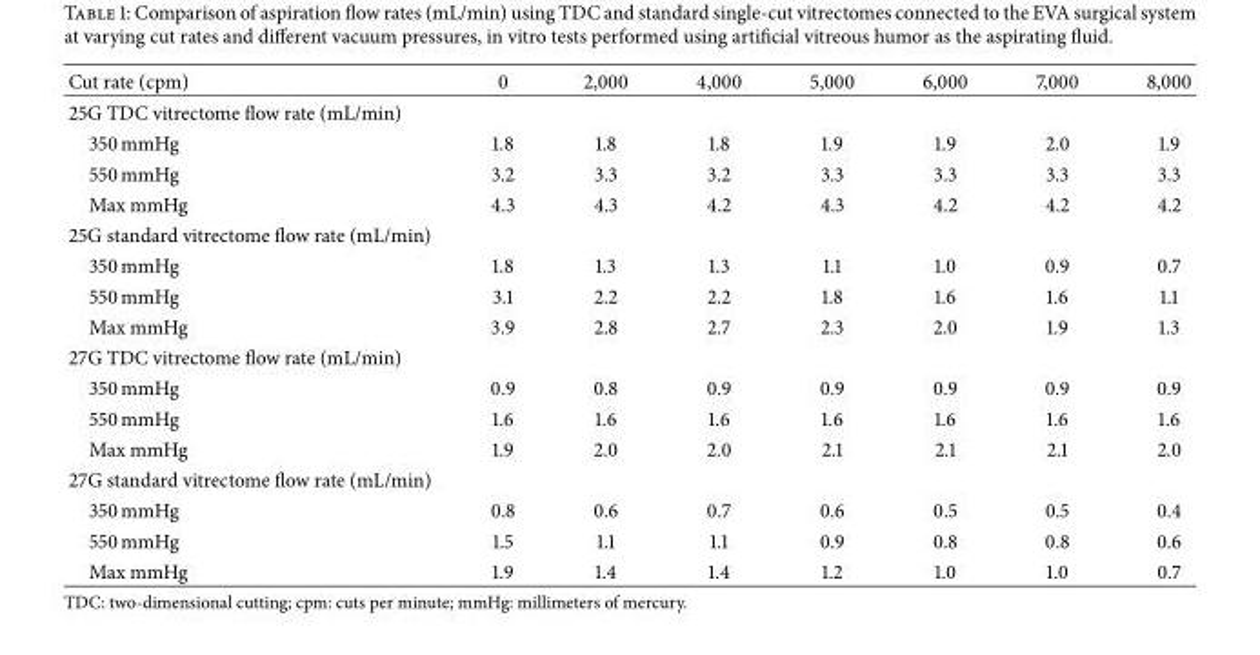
<table><thead><tr><td>Cut rate (cpm)</td><td>0</td><td>2,000</td><td>4,000</td><td>5,000</td><td>6,000</td><td>7,000</td><td>8,000</td></tr></thead><tbody><tr><td colspan="8">25G TDC vitrectome flow rate (mL/min)</td></tr><tr><td>350 mmHg</td><td>1.8</td><td>1.8</td><td>1.8</td><td>1.9</td><td>1.9</td><td>2.0</td><td>1.9</td></tr><tr><td>550 mmHg</td><td>3.2</td><td>3.3</td><td>3.2</td><td>3.3</td><td>3.3</td><td>3.3</td><td>3.3</td></tr><tr><td>Max mmHg</td><td>4.3</td><td>4.3</td><td>4.2</td><td>4.3</td><td>4.2</td><td>4.2</td><td>4.2</td></tr><tr><td colspan="8">25G standard vitrectome flow rate (mL/min)</td></tr><tr><td>350 mmHg</td><td>1.8</td><td>1.3</td><td>1.3</td><td>1.1</td><td>1.0</td><td>0.9</td><td>0.7</td></tr><tr><td>550 mmHg</td><td>3.1</td><td>2.2</td><td>2.2</td><td>1.8</td><td>1.6</td><td>1.6</td><td>1.1</td></tr><tr><td>Max mmHg</td><td>3.9</td><td>2.8</td><td>2.7</td><td>2.3</td><td>2.0</td><td>1.9</td><td>1.3</td></tr><tr><td colspan="8">27G TDC vitrectome flow rate (mL/min)</td></tr><tr><td>350 mmHg</td><td>0.9</td><td>0.8</td><td>0.9</td><td>0.9</td><td>0.9</td><td>0.9</td><td>0.9</td></tr><tr><td>550 mmHg</td><td>1.6</td><td>1.6</td><td>1.6</td><td>1.6</td><td>1.6</td><td>1.6</td><td>1.6</td></tr><tr><td>Max mmHg</td><td>1.9</td><td>2.0</td><td>2.0</td><td>2.1</td><td>2.1</td><td>2.1</td><td>2.0</td></tr><tr><td colspan="8">27G standard vitrectome flow rate (mL/min)</td></tr><tr><td>350 mmHg</td><td>0.8</td><td>0.6</td><td>0.7</td><td>0.6</td><td>0.5</td><td>0.5</td><td>0.4</td></tr><tr><td>550 mmHg</td><td>1.5</td><td>1.1</td><td>1.1</td><td>0.9</td><td>0.8</td><td>0.8</td><td>0.6</td></tr><tr><td>Max mmHg</td><td>1.9</td><td>1.4</td><td>1.4</td><td>1.2</td><td>1.0</td><td>1.0</td><td>0.7</td></tr></tbody></table>